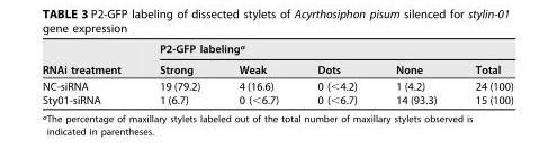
<table><thead><tr><td rowspan="2">RNAi treatment</td><td colspan="5">P2-GFP labeling<sup>a</sup></td></tr><tr><td>Strong</td><td>Weak</td><td>Dots</td><td>None</td><td>Total</td></tr></thead><tbody><tr><td>NC-siRNA</td><td>19 (79.2)</td><td>4 (16.6)</td><td>0 (&lt;4.2)</td><td>1 (4.2)</td><td>24 (100)</td></tr><tr><td>Sty01-siRNA</td><td>1 (6.7)</td><td>0 (&lt;6.7)</td><td>0 (&lt;6.7)</td><td>14 (93.3)</td><td>15 (100)</td></tr></tbody></table>